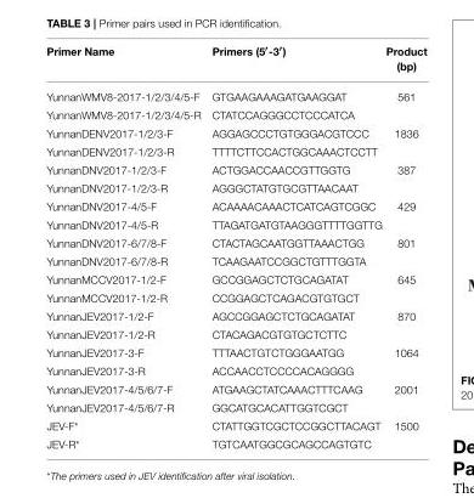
<table><thead><tr><td>Primer Name</td><td>Primers (5<sup>′</sup>-3<sup>′</sup>)</td><td>Product (bp)</td></tr></thead><tbody><tr><td>YunnanWMV8-2017-1/2/3/4/5-F</td><td>GTGAAGAAAGATGAAGGAT</td><td>561</td></tr><tr><td>YunnanWMV8-2017-1/2/3/4/5-R</td><td>CTATCCAGGGCCTCCCATCA</td><td></td></tr><tr><td>YunnanDENV2017-1/2/3-F</td><td>AGGAGCCCTGTGGGACGTCCC</td><td>1836</td></tr><tr><td>YunnanDENV2017-1/2/3-R</td><td>TTTTCTTCCACTGGCAAACTCCTT</td><td></td></tr><tr><td>YunnanDNV2017-1/2/3-F</td><td>ACTGGACCAACCGTTGGTG</td><td>387</td></tr><tr><td>YunnanDNV2017-1/2/3-R</td><td>AGGGCTATGTGCGTTAACAAT</td><td></td></tr><tr><td>YunnanDNV2017-4/5-F</td><td>ACAAAACAAACTCATCAGTCGGC</td><td>429</td></tr><tr><td>YunnanDNV2017-4/5-R</td><td>TTAGATGATGTAAGGGTTTTGGTTG</td><td></td></tr><tr><td>YunnanDNV2017-6/7/8-F</td><td>CTACTAGCAATGGTTAAACTGG</td><td>801</td></tr><tr><td>YunnanDNV2017-6/7/8-R</td><td>TCAAGAATCCGGCTGTTTGGTA</td><td></td></tr><tr><td>YunnanMCCV2017-1/2-F</td><td>GCCGGAGCTCTGCAGATAT</td><td>645</td></tr><tr><td>YunnanMCCV2017-1/2-R</td><td>CCGGAGCTCAGACGTGTGCT</td><td></td></tr><tr><td>YunnanJEV2017-1/2-F</td><td>AGCCGGAGCTCTGCAGATAT</td><td>870</td></tr><tr><td>YunnanJEV2017-1/2-R</td><td>CTACAGACGTGTGCTCTTC</td><td></td></tr><tr><td>YunnanJEV2017-3-F</td><td>TTTAACTGTCTGGGAATGG</td><td>1064</td></tr><tr><td>YunnanJEV2017-3-R</td><td>ACCAACCTCCCCACAGGGG</td><td></td></tr><tr><td>YunnanJEV2017-4/5/6/7-F</td><td>ATGAAGCTATCAAACTTTCAAG</td><td>2001</td></tr><tr><td>YunnanJEV2017-4/5/6/7-R</td><td>GGCATGCACATTGGTCGCT</td><td></td></tr><tr><td>JEV-F*</td><td>CTATTGGTCGCTCCGGCTTACAGT</td><td>1500</td></tr><tr><td>JEV-R*</td><td>TGTCAATGGCGCAGCCAGTGTC</td><td></td></tr></tbody></table>